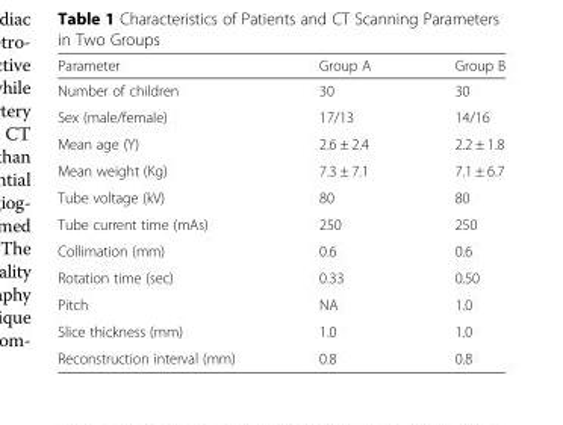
<table><thead><tr><td>Parameter</td><td>Group A</td><td>Group B</td></tr></thead><tbody><tr><td>Number of children</td><td>30</td><td>30</td></tr><tr><td>Sex (male/female)</td><td>17/13</td><td>14/16</td></tr><tr><td>Mean age (Y)</td><td>2.6 ± 2.4</td><td>2.2 ± 1.8</td></tr><tr><td>Mean weight (Kg)</td><td>7.3 ± 7.1</td><td>7.1 ± 6.7</td></tr><tr><td>Tube voltage (kV)</td><td>80</td><td>80</td></tr><tr><td>Tube current time (mAs)</td><td>250</td><td>250</td></tr><tr><td>Collimation (mm)</td><td>0.6</td><td>0.6</td></tr><tr><td>Rotation time (sec)</td><td>0.33</td><td>0.50</td></tr><tr><td>Pitch</td><td>NA</td><td>1.0</td></tr><tr><td>Slice thickness (mm)</td><td>1.0</td><td>1.0</td></tr><tr><td>Reconstruction interval (mm)</td><td>0.8</td><td>0.8</td></tr></tbody></table>